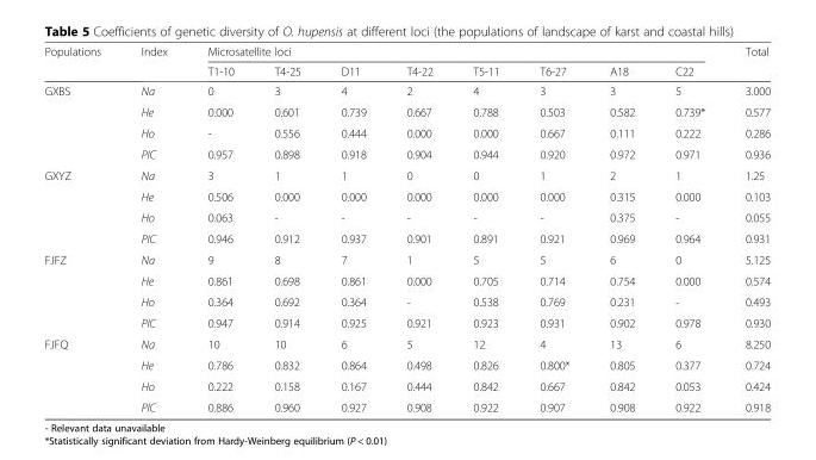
<table><thead><tr><td rowspan="2">Populations</td><td rowspan="2">Index</td><td colspan="8">Microsatellite loci</td><td rowspan="2">Total</td></tr><tr><td>T1-10</td><td>T4-25</td><td>D11</td><td>T4-22</td><td>T5-11</td><td>T6-27</td><td>A18</td><td>C22</td></tr></thead><tbody><tr><td rowspan="4">GXBS</td><td>Na</td><td>0</td><td>3</td><td>4</td><td>2</td><td>4</td><td>3</td><td>3</td><td>5</td><td>3.000</td></tr><tr><td>He</td><td>0.000</td><td>0.601</td><td>0.739</td><td>0.667</td><td>0.788</td><td>0.503</td><td>0.582</td><td>0.739*</td><td>0.577</td></tr><tr><td>Ho</td><td>-</td><td>0.556</td><td>0.444</td><td>0.000</td><td>0.000</td><td>0.667</td><td>0.111</td><td>0.222</td><td>0.286</td></tr><tr><td>PIC</td><td>0.957</td><td>0.898</td><td>0.918</td><td>0.904</td><td>0.944</td><td>0.920</td><td>0.972</td><td>0.971</td><td>0.936</td></tr><tr><td rowspan="4">GXYZ</td><td>Na</td><td>3</td><td>1</td><td>1</td><td>0</td><td>0</td><td>1</td><td>2</td><td>1</td><td>1.25</td></tr><tr><td>He</td><td>0.506</td><td>0.000</td><td>0.000</td><td>0.000</td><td>0.000</td><td>0.000</td><td>0.315</td><td>0.000</td><td>0.103</td></tr><tr><td>Ho</td><td>0.063</td><td>-</td><td>-</td><td>-</td><td>-</td><td>-</td><td>0.375</td><td>-</td><td>0.055</td></tr><tr><td>PIC</td><td>0.946</td><td>0.912</td><td>0.937</td><td>0.901</td><td>0.891</td><td>0.921</td><td>0.969</td><td>0.964</td><td>0.931</td></tr><tr><td rowspan="4">FJFZ</td><td>Na</td><td>9</td><td>8</td><td>7</td><td>1</td><td>5</td><td>5</td><td>6</td><td>0</td><td>5.125</td></tr><tr><td>He</td><td>0.861</td><td>0.698</td><td>0.861</td><td>0.000</td><td>0.705</td><td>0.714</td><td>0.754</td><td>0.000</td><td>0.574</td></tr><tr><td>Ho</td><td>0.364</td><td>0.692</td><td>0.364</td><td>-</td><td>0.538</td><td>0.769</td><td>0.231</td><td>-</td><td>0.493</td></tr><tr><td>PIC</td><td>0.947</td><td>0.914</td><td>0.925</td><td>0.921</td><td>0.923</td><td>0.931</td><td>0.902</td><td>0.978</td><td>0.930</td></tr><tr><td rowspan="4">FJFQ</td><td>Na</td><td>10</td><td>10</td><td>6</td><td>5</td><td>12</td><td>4</td><td>13</td><td>6</td><td>8.250</td></tr><tr><td>He</td><td>0.786</td><td>0.832</td><td>0.864</td><td>0.498</td><td>0.826</td><td>0.800*</td><td>0.805</td><td>0.377</td><td>0.724</td></tr><tr><td>Ho</td><td>0.222</td><td>0.158</td><td>0.167</td><td>0.444</td><td>0.842</td><td>0.667</td><td>0.842</td><td>0.053</td><td>0.424</td></tr><tr><td>PIC</td><td>0.886</td><td>0.960</td><td>0.927</td><td>0.908</td><td>0.922</td><td>0.907</td><td>0.908</td><td>0.922</td><td>0.918</td></tr></tbody></table>